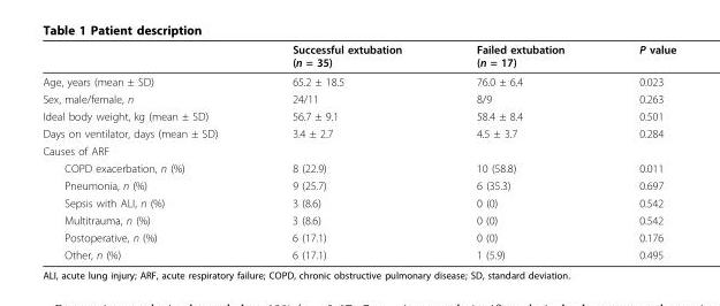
<table><thead><tr><td></td><td>Successful extubation (n = 35)</td><td>Failed extubation (n = 17)</td><td>P value</td></tr></thead><tbody><tr><td>Age, years (mean ± SD)</td><td>65.2 ± 18.5</td><td>76.0 ± 6.4</td><td>0.023</td></tr><tr><td>Sex, male/female, n</td><td>24/11</td><td>8/9</td><td>0.263</td></tr><tr><td>Ideal body weight, kg (mean ± SD)</td><td>56.7 ± 9.1</td><td>58.4 ± 8.4</td><td>0.501</td></tr><tr><td>Days on ventilator, days (mean ± SD)</td><td>3.4 ± 2.7</td><td>4.5 ± 3.7</td><td>0.284</td></tr><tr><td colspan="4">Causes of ARF</td></tr><tr><td>COPD exacerbation, n (%)</td><td>8 (22.9)</td><td>10 (58.8)</td><td>0.011</td></tr><tr><td>Pneumonia, n (%)</td><td>9 (25.7)</td><td>6 (35.3)</td><td>0.697</td></tr><tr><td>Sepsis with ALI, n (%)</td><td>3 (8.6)</td><td>0 (0)</td><td>0.542</td></tr><tr><td>Multitrauma, n (%)</td><td>3 (8.6)</td><td>0 (0)</td><td>0.542</td></tr><tr><td>Postoperative, n (%)</td><td>6 (17.1)</td><td>0 (0)</td><td>0.176</td></tr><tr><td>Other, n (%)</td><td>6 (17.1)</td><td>1 (5.9)</td><td>0.495</td></tr></tbody></table>